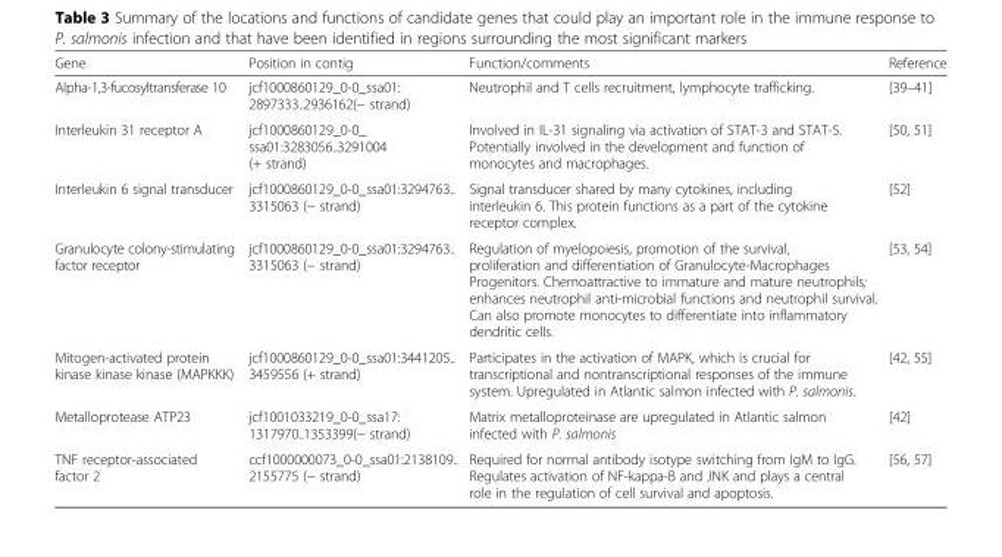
<table><thead><tr><td>Gene</td><td>Position in contig</td><td>Function/comments</td><td>Reference</td></tr></thead><tbody><tr><td>Alpha-1,3-fucosyltransferase 10</td><td>jcf1000860129_0-0_ssa01: 2897333..2936162(− strand)</td><td>Neutrophil and T cells recruitment, lymphocyte trafficking.</td><td>[39–41]</td></tr><tr><td>Interleukin 31 receptor A</td><td>jcf1000860129_0-0_ ssa01:3283056..3291004 (+ strand)</td><td>Involved in IL-31 signaling via activation of STAT-3 and STAT-5. Potentially involved in the development and function of monocytes and macrophages.</td><td>[50, 51]</td></tr><tr><td>Interleukin 6 signal transducer</td><td>jcf1000860129_0-0_ssa01:3294763.. 3315063 (− strand)</td><td>Signal transducer shared by many cytokines, including interleukin 6. This protein functions as a part of the cytokine receptor complex.</td><td>[52]</td></tr><tr><td>Granulocyte colony-stimulating factor receptor</td><td>jcf1000860129_0-0_ssa01:3294763.. 3315063 (− strand)</td><td>Regulation of myelopoiesis, promotion of the survival, proliferation and differentiation of Granulocyte-Macrophages Progenitors. Chemoattractive to immature and mature neutrophils; enhances neutrophil anti-microbial functions and neutrophil survival. Can also promote monocytes to differentiate into inflammatory dendritic cells.</td><td>[53, 54]</td></tr><tr><td>Mitogen-activated protein kinase kinase kinase (MAPKKK)</td><td>jcf1000860129_0-0_ssa01:3441205.. 3459556 (+ strand)</td><td>Participates in the activation of MAPK, which is crucial for transcriptional and nontranscriptional responses of the immune system. Upregulated in Atlantic salmon infected with P. salmonis.</td><td>[42, 55]</td></tr><tr><td>Metalloprotease ATP23</td><td>jcf1001033219_0-0_ssa17: 1317970..1353399(− strand)</td><td>Matrix metalloproteinase are upregulated in Atlantic salmon infected with P. salmonis</td><td>[42]</td></tr><tr><td>TNF receptor-associated factor 2</td><td>ccf1000000073_0-0_ssa01:2138109.. 2155775 (− strand)</td><td>Required for normal antibody isotype switching from IgM to IgG. Regulates activation of NF-kappa-B and JNK and plays a central role in the regulation of cell survival and apoptosis.</td><td>[56, 57]</td></tr></tbody></table>